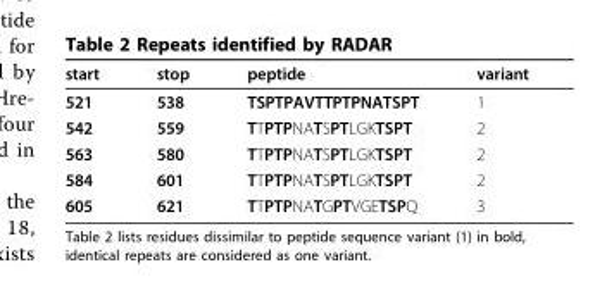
<table><thead><tr><td>start</td><td>stop</td><td>peptide</td><td>variant</td></tr></thead><tbody><tr><td>521</td><td>538</td><td>TSPTPAVTTPTPNATSPT</td><td>1</td></tr><tr><td>542</td><td>559</td><td>TTPTPNATSPTLGKTSPT</td><td>2</td></tr><tr><td>563</td><td>580</td><td>TTPTPNATSPTLGKTSPT</td><td>2</td></tr><tr><td>584</td><td>601</td><td>TTPTPNATSPTLGKTSPT</td><td>2</td></tr><tr><td>605</td><td>621</td><td>TTPTPNATGPTVGETSPQ</td><td>3</td></tr></tbody></table>